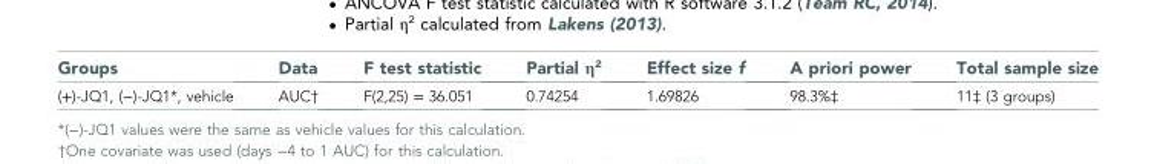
<table><thead><tr><td>Groups</td><td>Data</td><td>F test statistic</td><td>Partial η<sup>2</sup></td><td>Effect size f</td><td>A priori power</td><td>Total sample size</td></tr></thead><tbody><tr><td>(+)-JQ1, (−)-JQ1*, vehicle</td><td>AUC†</td><td>F(2,25) = 36.051</td><td>0.74254</td><td>1.69826</td><td>98.3%‡</td><td>11‡ (3 groups)</td></tr></tbody></table>